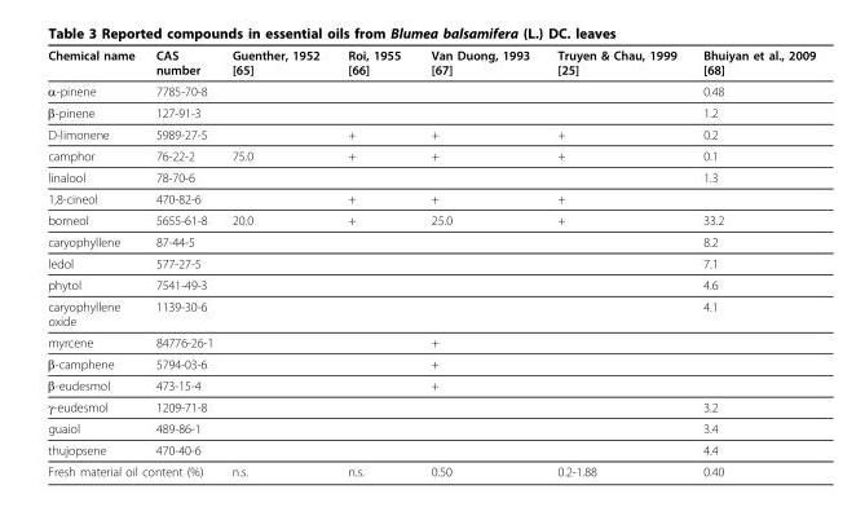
<table><thead><tr><td>Chemical name</td><td>CAS number</td><td>Guenther, 1952 [65]</td><td>Roi, 1955 [66]</td><td>Van Duong, 1993 [67]</td><td>Truyen &amp; Chau, 1999 [25]</td><td>Bhuiyan et al., 2009 [68]</td></tr></thead><tbody><tr><td>α-pinene</td><td>7785-70-8</td><td></td><td></td><td></td><td></td><td>0.48</td></tr><tr><td>β-pinene</td><td>127-91-3</td><td></td><td></td><td></td><td></td><td>1.2</td></tr><tr><td>D-limonene</td><td>5989-27-5</td><td></td><td>+</td><td>+</td><td>+</td><td>0.2</td></tr><tr><td>camphor</td><td>76-22-2</td><td>75.0</td><td>+</td><td>+</td><td>+</td><td>0.1</td></tr><tr><td>linalool</td><td>78-70-6</td><td></td><td></td><td></td><td></td><td>1.3</td></tr><tr><td>1,8-cineol</td><td>470-82-6</td><td></td><td>+</td><td>+</td><td>+</td><td></td></tr><tr><td>borneol</td><td>5655-61-8</td><td>20.0</td><td>+</td><td>25.0</td><td>+</td><td>33.2</td></tr><tr><td>caryophyllene</td><td>87-44-5</td><td></td><td></td><td></td><td></td><td>8.2</td></tr><tr><td>ledol</td><td>577-27-5</td><td></td><td></td><td></td><td></td><td>7.1</td></tr><tr><td>phytol</td><td>7541-49-3</td><td></td><td></td><td></td><td></td><td>4.6</td></tr><tr><td>caryophyllene oxide</td><td>1139-30-6</td><td></td><td></td><td></td><td></td><td>4.1</td></tr><tr><td>myrcene</td><td>84776-26-1</td><td></td><td></td><td>+</td><td></td><td></td></tr><tr><td>β-camphene</td><td>5794-03-6</td><td></td><td></td><td>+</td><td></td><td></td></tr><tr><td>β-eudesmol</td><td>473-15-4</td><td></td><td></td><td>+</td><td></td><td></td></tr><tr><td>γ-eudesmol</td><td>1209-71-8</td><td></td><td></td><td></td><td></td><td>3.2</td></tr><tr><td>guaiol</td><td>489-86-1</td><td></td><td></td><td></td><td></td><td>3.4</td></tr><tr><td>thujopsene</td><td>470-40-6</td><td></td><td></td><td></td><td></td><td>4.4</td></tr><tr><td colspan="2">Fresh material oil content (%)</td><td>n.s.</td><td>n.s.</td><td>0.50</td><td>0.2-1.88</td><td>0.40</td></tr></tbody></table>